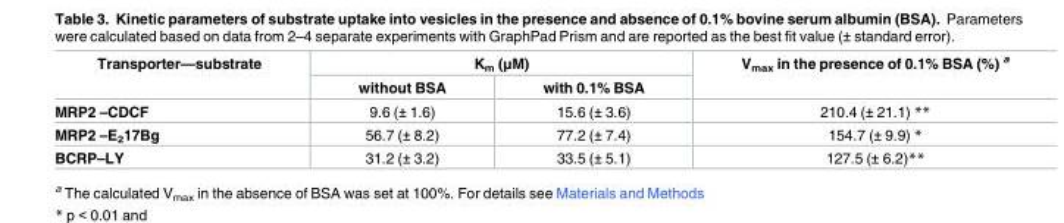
<table><thead><tr><td rowspan="2">Transporter—substrate</td><td colspan="2">K<sub>m</sub> (μM)</td><td rowspan="2">V<sub>max</sub> in the presence of 0.1% BSA (%) <sup>a</sup></td></tr><tr><td>without BSA</td><td>with 0.1% BSA</td></tr></thead><tbody><tr><td>MRP2 –CDCF</td><td>9.6 (± 1.6)</td><td>15.6 (± 3.6)</td><td>210.4 (± 21.1) **</td></tr><tr><td>MRP2 –E<sub>2</sub>17Βg</td><td>56.7 (± 8.2)</td><td>77.2 (± 7.4)</td><td>154.7 (± 9.9) *</td></tr><tr><td>BCRP–LY</td><td>31.2 (± 3.2)</td><td>33.5 (± 5.1)</td><td>127.5 (± 6.2)**</td></tr></tbody></table>